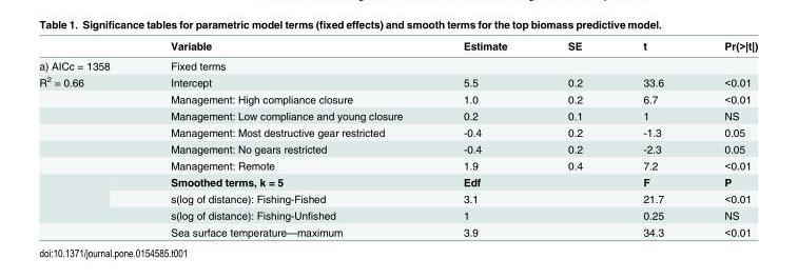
<table><thead><tr><td></td><td>Variable</td><td>Estimate</td><td>SE</td><td>t</td><td>Pr(&gt;|t|)</td></tr></thead><tbody><tr><td>a) AICc = 1358</td><td>Fixed terms</td><td></td><td></td><td></td><td></td></tr><tr><td rowspan="10">R<sup>2</sup> = 0.66</td><td>Intercept</td><td>5.5</td><td>0.2</td><td>33.6</td><td>&lt;0.01</td></tr><tr><td>Management: High compliance closure</td><td>1.0</td><td>0.2</td><td>6.7</td><td>&lt;0.01</td></tr><tr><td>Management: Low compliance and young closure</td><td>0.2</td><td>0.1</td><td>1</td><td>NS</td></tr><tr><td>Management: Most destructive gear restricted</td><td>-0.4</td><td>0.2</td><td>-1.3</td><td>0.05</td></tr><tr><td>Management: No gears restricted</td><td>-0.4</td><td>0.2</td><td>-2.3</td><td>0.05</td></tr><tr><td>Management: Remote</td><td>1.9</td><td>0.4</td><td>7.2</td><td>&lt;0.01</td></tr><tr><td>Smoothed terms, k = 5</td><td>Edf</td><td></td><td>F</td><td>P</td></tr><tr><td>s(log of distance): Fishing-Fished</td><td>3.1</td><td></td><td>21.7</td><td>&lt;0.01</td></tr><tr><td>s(log of distance): Fishing-Unfished</td><td>1</td><td></td><td>0.25</td><td>NS</td></tr><tr><td>Sea surface temperature—maximum</td><td>3.9</td><td></td><td>34.3</td><td>&lt;0.01</td></tr></tbody></table>